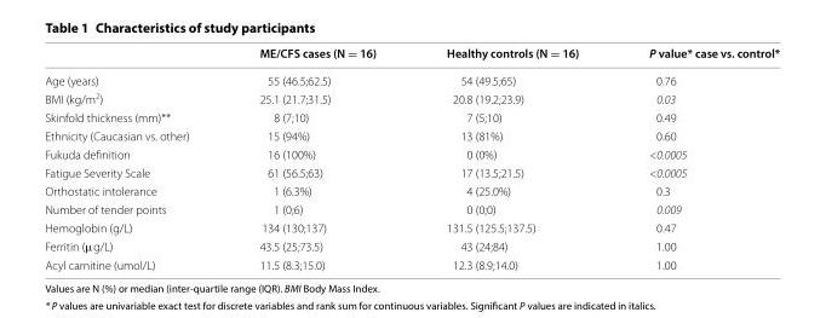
<table><thead><tr><td></td><td>ME/CFS cases (N = 16)</td><td>Healthy controls (N = 16)</td><td>P value* case vs. control*</td></tr></thead><tbody><tr><td>Age (years)</td><td>55 (46.5;62.5)</td><td>54 (49.5;65)</td><td>0.76</td></tr><tr><td>BMI (kg/m<sup>2</sup>)</td><td>25.1 (21.7;31.5)</td><td>20.8 (19.2;23.9)</td><td>0.03</td></tr><tr><td>Skinfold thickness (mm)**</td><td>8 (7;10)</td><td>7 (5;10)</td><td>0.49</td></tr><tr><td>Ethnicity (Caucasian vs. other)</td><td>15 (94%)</td><td>13 (81%)</td><td>0.60</td></tr><tr><td>Fukuda definition</td><td>16 (100%)</td><td>0 (0%)</td><td>&lt;0.0005</td></tr><tr><td>Fatigue Severity Scale</td><td>61 (56.5;63)</td><td>17 (13.5;21.5)</td><td>&lt;0.0005</td></tr><tr><td>Orthostatic intolerance</td><td>1 (6.3%)</td><td>4 (25.0%)</td><td>0.3</td></tr><tr><td>Number of tender points</td><td>1 (0;6)</td><td>0 (0;0)</td><td>0.009</td></tr><tr><td>Hemoglobin (g/L)</td><td>134 (130;137)</td><td>131.5 (125.5;137.5)</td><td>0.47</td></tr><tr><td>Ferritin (μg/L)</td><td>43.5 (25;73.5)</td><td>43 (24;84)</td><td>1.00</td></tr><tr><td>Acyl carnitine (umol/L)</td><td>11.5 (8.3;15.0)</td><td>12.3 (8.9;14.0)</td><td>1.00</td></tr></tbody></table>